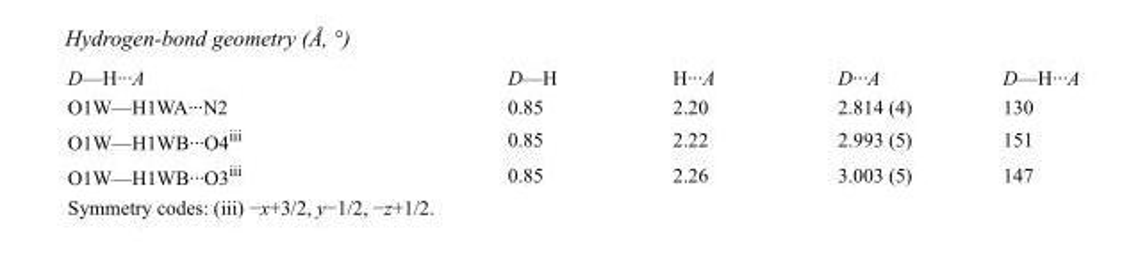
<table><tbody><tr><td>D—H···A</td><td>D—H</td><td>H···A</td><td>D···A</td><td>D—H···A</td></tr><tr><td>O1W—H1WA···N2</td><td>0.85</td><td>2.20</td><td>2.814 (4)</td><td>130</td></tr><tr><td>O1W—H1WB···O4<sup>iii</sup></td><td>0.85</td><td>2.22</td><td>2.993 (5)</td><td>151</td></tr><tr><td>O1W—H1WB···O3<sup>iii</sup></td><td>0.85</td><td>2.26</td><td>3.003 (5)</td><td>147</td></tr></tbody></table>